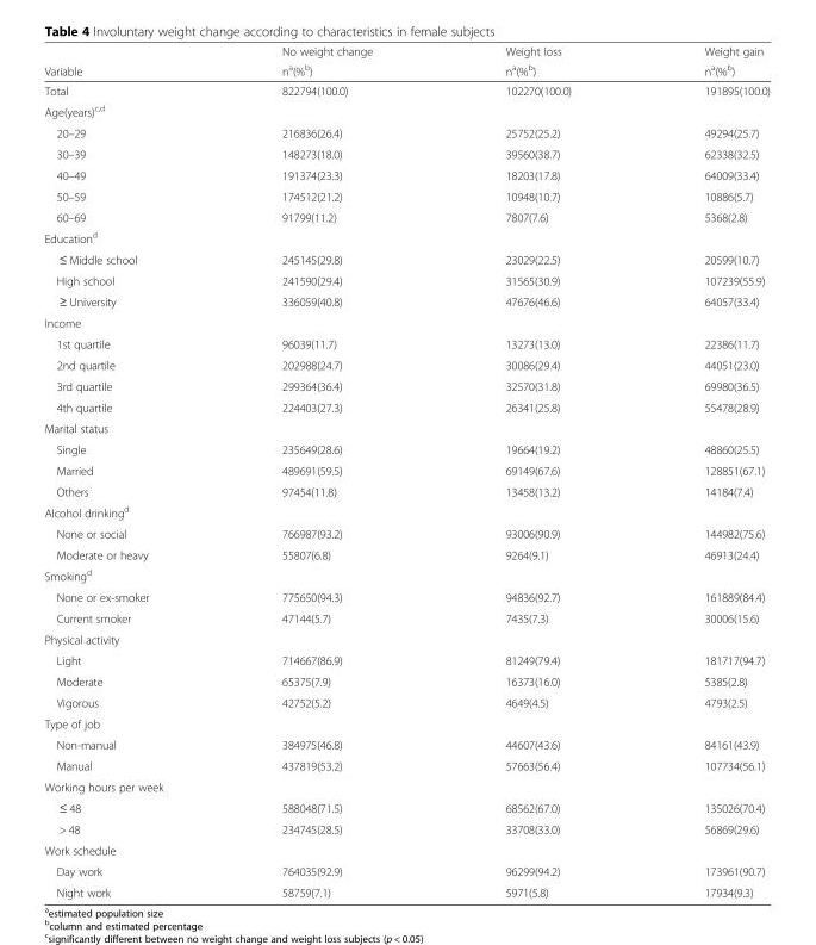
<table><thead><tr><td rowspan="2">Variable</td><td rowspan="2">No weight change n<sup>a</sup>(%<sup>b</sup>)</td><td rowspan="2">Weight loss n<sup>a</sup>(%<sup>b</sup>)</td><td rowspan="2">Weight gain n<sup>a</sup>(%<sup>b</sup>)</td></tr><tr></tr></thead><tbody><tr><td>Total</td><td>822794(100.0)</td><td>102270(100.0)</td><td>191895(100.0)</td></tr><tr><td colspan="4">Age(years)<sup>c,d</sup></td></tr><tr><td>20–29</td><td>216836(26.4)</td><td>25752(25.2)</td><td>49294(25.7)</td></tr><tr><td>30–39</td><td>148273(18.0)</td><td>39560(38.7)</td><td>62338(32.5)</td></tr><tr><td>40–49</td><td>191374(23.3)</td><td>18203(17.8)</td><td>64009(33.4)</td></tr><tr><td>50–59</td><td>174512(21.2)</td><td>10948(10.7)</td><td>10886(5.7)</td></tr><tr><td>60–69</td><td>91799(11.2)</td><td>7807(7.6)</td><td>5368(2.8)</td></tr><tr><td colspan="4">Education<sup>d</sup></td></tr><tr><td>≤ Middle school</td><td>245145(29.8)</td><td>23029(22.5)</td><td>20599(10.7)</td></tr><tr><td>High school</td><td>241590(29.4)</td><td>31565(30.9)</td><td>107239(55.9)</td></tr><tr><td>≥ University</td><td>336059(40.8)</td><td>47676(46.6)</td><td>64057(33.4)</td></tr><tr><td colspan="4">Income</td></tr><tr><td>1st quartile</td><td>96039(11.7)</td><td>13273(13.0)</td><td>22386(11.7)</td></tr><tr><td>2nd quartile</td><td>202988(24.7)</td><td>30086(29.4)</td><td>44051(23.0)</td></tr><tr><td>3rd quartile</td><td>299364(36.4)</td><td>32570(31.8)</td><td>69980(36.5)</td></tr><tr><td>4th quartile</td><td>224403(27.3)</td><td>26341(25.8)</td><td>55478(28.9)</td></tr><tr><td colspan="4">Marital status</td></tr><tr><td>Single</td><td>235649(28.6)</td><td>19664(19.2)</td><td>48860(25.5)</td></tr><tr><td>Married</td><td>489691(59.5)</td><td>69149(67.6)</td><td>128851(67.1)</td></tr><tr><td>Others</td><td>97454(11.8)</td><td>13458(13.2)</td><td>14184(7.4)</td></tr><tr><td colspan="4">Alcohol drinking<sup>d</sup></td></tr><tr><td>None or social</td><td>766987(93.2)</td><td>93006(90.9)</td><td>144982(75.6)</td></tr><tr><td>Moderate or heavy</td><td>55807(6.8)</td><td>9264(9.1)</td><td>46913(24.4)</td></tr><tr><td colspan="4">Smoking<sup>d</sup></td></tr><tr><td>None or ex-smoker</td><td>775650(94.3)</td><td>94836(92.7)</td><td>161889(84.4)</td></tr><tr><td>Current smoker</td><td>47144(5.7)</td><td>7435(7.3)</td><td>30006(15.6)</td></tr><tr><td colspan="4">Physical activity</td></tr><tr><td>Light</td><td>714667(86.9)</td><td>81249(79.4)</td><td>181717(94.7)</td></tr><tr><td>Moderate</td><td>65375(7.9)</td><td>16373(16.0)</td><td>5385(2.8)</td></tr><tr><td>Vigorous</td><td>42752(5.2)</td><td>4649(4.5)</td><td>4793(2.5)</td></tr><tr><td colspan="4">Type of job</td></tr><tr><td>Non-manual</td><td>384975(46.8)</td><td>44607(43.6)</td><td>84161(43.9)</td></tr><tr><td>Manual</td><td>437819(53.2)</td><td>57663(56.4)</td><td>107734(56.1)</td></tr><tr><td colspan="4">Working hours per week</td></tr><tr><td>≤ 48</td><td>588048(71.5)</td><td>68562(67.0)</td><td>135026(70.4)</td></tr><tr><td>&gt; 48</td><td>234745(28.5)</td><td>33708(33.0)</td><td>56869(29.6)</td></tr><tr><td colspan="4">Work schedule</td></tr><tr><td>Day work</td><td>764035(92.9)</td><td>96299(94.2)</td><td>173961(90.7)</td></tr><tr><td>Night work</td><td>58759(7.1)</td><td>5971(5.8)</td><td>17934(9.3)</td></tr></tbody></table>